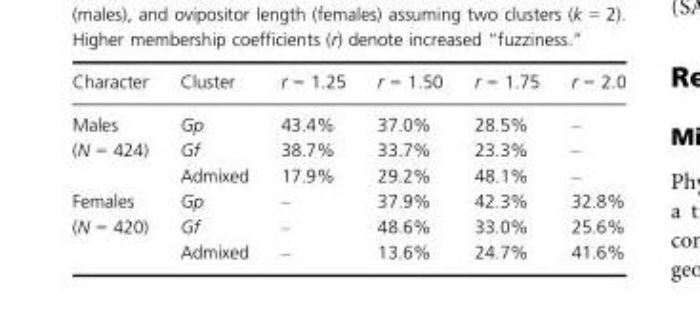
<table><thead><tr><td>Character</td><td>Cluster</td><td>r = 1.25</td><td>r = 1.50</td><td>r = 1.75</td><td>r = 2.0</td></tr></thead><tbody><tr><td>Males</td><td>Gp</td><td>43.4%</td><td>37.0%</td><td>28.5%</td><td>–</td></tr><tr><td rowspan="2">(N = 424)</td><td>Gf</td><td>38.7%</td><td>33.7%</td><td>23.3%</td><td>–</td></tr><tr><td>Admixed</td><td>17.9%</td><td>29.2%</td><td>48.1%</td><td>–</td></tr><tr><td>Females</td><td>Gp</td><td>–</td><td>37.9%</td><td>42.3%</td><td>32.8%</td></tr><tr><td rowspan="2">(N = 420)</td><td>Gf</td><td>–</td><td>48.6%</td><td>33.0%</td><td>25.6%</td></tr><tr><td>Admixed</td><td>–</td><td>13.6%</td><td>24.7%</td><td>41.6%</td></tr></tbody></table>